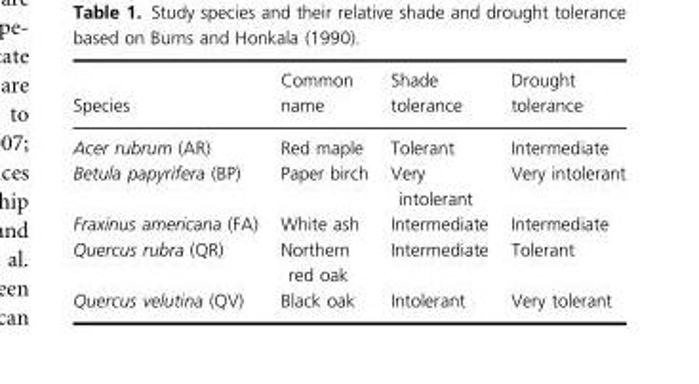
<table><thead><tr><td>Species</td><td>Common name</td><td>Shade tolerance</td><td>Drought tolerance</td></tr></thead><tbody><tr><td>Acer rubrum (AR)</td><td>Red maple</td><td>Tolerant</td><td>Intermediate</td></tr><tr><td>Betula papyrifera (BP)</td><td>Paper birch</td><td>Very intolerant</td><td>Very intolerant</td></tr><tr><td>Fraxinus americana (FA)</td><td>White ash</td><td>Intermediate</td><td>Intermediate</td></tr><tr><td>Quercus rubra (QR)</td><td>Northern red oak</td><td>Intermediate</td><td>Tolerant</td></tr><tr><td>Quercus velutina (QV)</td><td>Black oak</td><td>Intolerant</td><td>Very tolerant</td></tr></tbody></table>